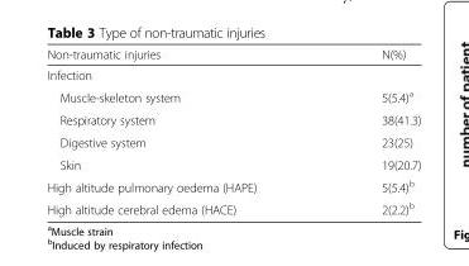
<table><thead><tr><td>Non-traumatic injuries</td><td>N(%)</td></tr></thead><tbody><tr><td colspan="2">Infection</td></tr><tr><td>Muscle-skeleton system</td><td>5(5.4)<sup>a</sup></td></tr><tr><td>Respiratory system</td><td>38(41.3)</td></tr><tr><td>Digestive system</td><td>23(25)</td></tr><tr><td>Skin</td><td>19(20.7)</td></tr><tr><td>High altitude pulmonary oedema (HAPE)</td><td>5(5.4)<sup>b</sup></td></tr><tr><td>High altitude cerebral edema (HACE)</td><td>2(2.2)<sup>b</sup></td></tr></tbody></table>